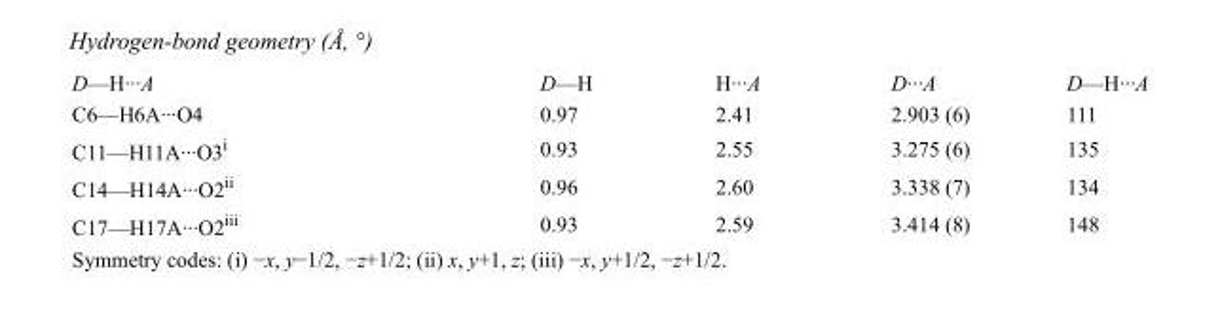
<table><tbody><tr><td>D—H···A</td><td>D—H</td><td>H···A</td><td>D···A</td><td>D—H···A</td></tr><tr><td>C6—H6A···O4</td><td>0.97</td><td>2.41</td><td>2.903 (6)</td><td>111</td></tr><tr><td>C11—H11A···O3<sup>i</sup></td><td>0.93</td><td>2.55</td><td>3.275 (6)</td><td>135</td></tr><tr><td>C14—H14A···O2<sup>ii</sup></td><td>0.96</td><td>2.60</td><td>3.338 (7)</td><td>134</td></tr><tr><td>C17—H17A···O2<sup>iii</sup></td><td>0.93</td><td>2.59</td><td>3.414 (8)</td><td>148</td></tr></tbody></table>